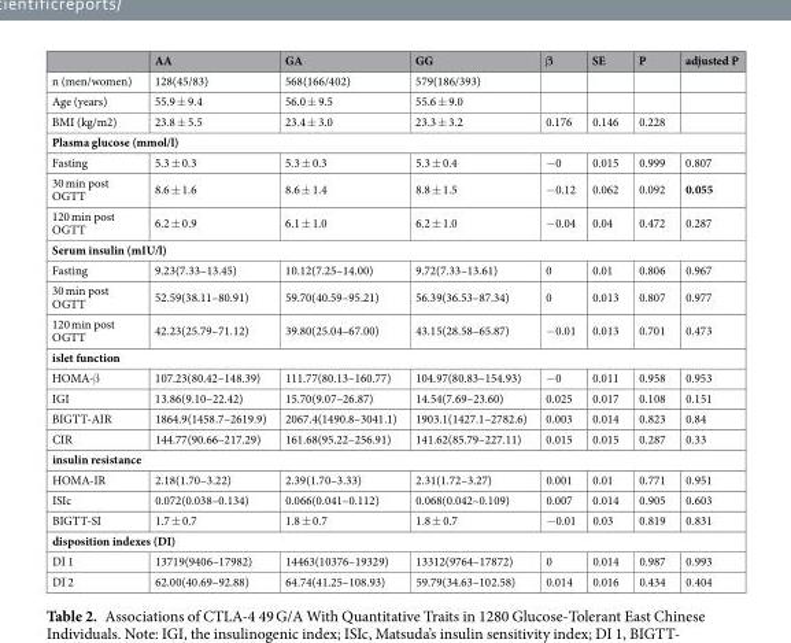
<table><thead><tr><td></td><td>AA</td><td>GA</td><td>GG</td><td>β</td><td>SE</td><td>P</td><td>adjusted P</td></tr></thead><tbody><tr><td>n (men/women)</td><td>128(45/83)</td><td>568(166/402)</td><td>579(186/393)</td><td></td><td></td><td></td><td></td></tr><tr><td>Age (years)</td><td>55.9 ± 9.4</td><td>56.0 ± 9.5</td><td>55.6 ± 9.0</td><td></td><td></td><td></td><td></td></tr><tr><td>BMI (kg/m2)</td><td>23.8 ± 5.5</td><td>23.4 ± 3.0</td><td>23.3 ± 3.2</td><td>0.176</td><td>0.146</td><td>0.228</td><td></td></tr><tr><td colspan="8">Plasma glucose (mmol/l)</td></tr><tr><td>Fasting</td><td>5.3 ± 0.3</td><td>5.3 ± 0.3</td><td>5.3 ± 0.4</td><td>−0</td><td>0.015</td><td>0.999</td><td>0.807</td></tr><tr><td>30 min post OGTT</td><td>8.6 ± 1.6</td><td>8.6 ± 1.4</td><td>8.8 ± 1.5</td><td>−0.12</td><td>0.062</td><td>0.092</td><td>0.055</td></tr><tr><td>120 min post OGTT</td><td>6.2 ± 0.9</td><td>6.1 ± 1.0</td><td>6.2 ± 1.0</td><td>−0.04</td><td>0.04</td><td>0.472</td><td>0.287</td></tr><tr><td colspan="8">Serum insulin (mIU/l)</td></tr><tr><td>Fasting</td><td>9.23(7.33–13.45)</td><td>10.12(7.25–14.00)</td><td>9.72(7.33–13.61)</td><td>0</td><td>0.01</td><td>0.806</td><td>0.967</td></tr><tr><td>30 min post OGTT</td><td>52.59(38.11–80.91)</td><td>59.70(40.59–95.21)</td><td>56.39(36.53–87.34)</td><td>0</td><td>0.013</td><td>0.807</td><td>0.977</td></tr><tr><td>120 min post OGTT</td><td>42.23(25.79–71.12)</td><td>39.80(25.04–67.00)</td><td>43.15(28.58–65.87)</td><td>−0.01</td><td>0.013</td><td>0.701</td><td>0.473</td></tr><tr><td colspan="8">islet function</td></tr><tr><td>HOMA-β</td><td>107.23(80.42–148.39)</td><td>111.77(80.13–160.77)</td><td>104.97(80.83–154.93)</td><td>−0</td><td>0.011</td><td>0.958</td><td>0.953</td></tr><tr><td>IGI</td><td>13.86(9.10–22.42)</td><td>15.70(9.07–26.87)</td><td>14.54(7.69–23.60)</td><td>0.025</td><td>0.017</td><td>0.108</td><td>0.151</td></tr><tr><td>BIGTT-AIR</td><td>1864.9(1458.7–2619.9)</td><td>2067.4(1490.8–3041.1)</td><td>1903.1(1427.1–2782.6)</td><td>0.003</td><td>0.014</td><td>0.823</td><td>0.84</td></tr><tr><td>CIR</td><td>144.77(90.66–217.29)</td><td>161.68(95.22–256.91)</td><td>141.62(85.79–227.11)</td><td>0.015</td><td>0.015</td><td>0.287</td><td>0.33</td></tr><tr><td colspan="8">insulin resistance</td></tr><tr><td>HOMA-IR</td><td>2.18(1.70–3.22)</td><td>2.39(1.70–3.33)</td><td>2.31(1.72–3.27)</td><td>0.001</td><td>0.01</td><td>0.771</td><td>0.951</td></tr><tr><td>ISIc</td><td>0.072(0.038–0.134)</td><td>0.066(0.041–0.112)</td><td>0.068(0.042–0.109)</td><td>0.007</td><td>0.014</td><td>0.905</td><td>0.603</td></tr><tr><td>BIGTT-SI</td><td>1.7 ± 0.7</td><td>1.8 ± 0.7</td><td>1.8 ± 0.7</td><td>−0.01</td><td>0.03</td><td>0.819</td><td>0.831</td></tr><tr><td colspan="8">disposition indexes (DI)</td></tr><tr><td>DI 1</td><td>13719(9406–17982)</td><td>14463(10376–19329)</td><td>13312(9764–17872)</td><td>0</td><td>0.014</td><td>0.987</td><td>0.993</td></tr><tr><td>DI 2</td><td>62.00(40.69–92.88)</td><td>64.74(41.25–108.93)</td><td>59.79(34.63–102.58)</td><td>0.014</td><td>0.016</td><td>0.434</td><td>0.404</td></tr></tbody></table>